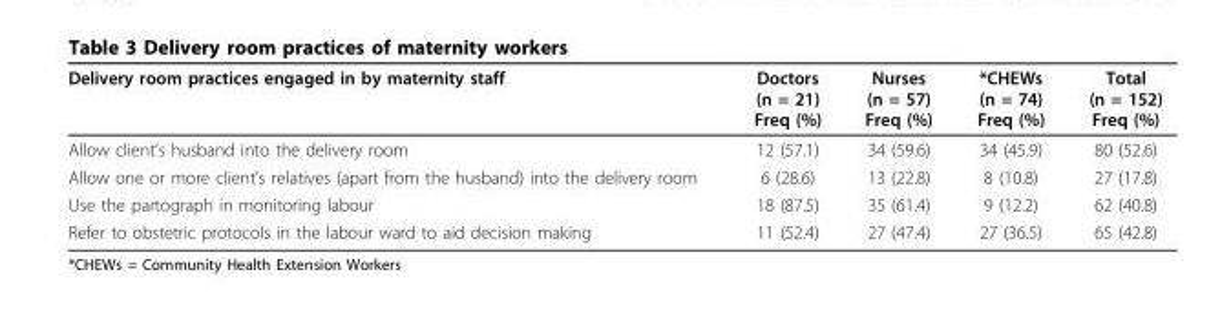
<table><thead><tr><td>Delivery room practices engaged in by maternity staff</td><td>Doctors (n = 21) Freq (%)</td><td>Nurses (n = 57) Freq (%)</td><td>*CHEWs (n = 74) Freq (%)</td><td>Total (n = 152) Freq (%)</td></tr></thead><tbody><tr><td>Allow client’s husband into the delivery room</td><td>12 (57.1)</td><td>34 (59.6)</td><td>34 (45.9)</td><td>80 (52.6)</td></tr><tr><td>Allow one or more client’s relatives (apart from the husband) into the delivery room</td><td>6 (28.6)</td><td>13 (22.8)</td><td>8 (10.8)</td><td>27 (17.8)</td></tr><tr><td>Use the partograph in monitoring labour</td><td>18 (87.5)</td><td>35 (61.4)</td><td>9 (12.2)</td><td>62 (40.8)</td></tr><tr><td>Refer to obstetric protocols in the labour ward to aid decision making</td><td>11 (52.4)</td><td>27 (47.4)</td><td>27 (36.5)</td><td>65 (42.8)</td></tr></tbody></table>